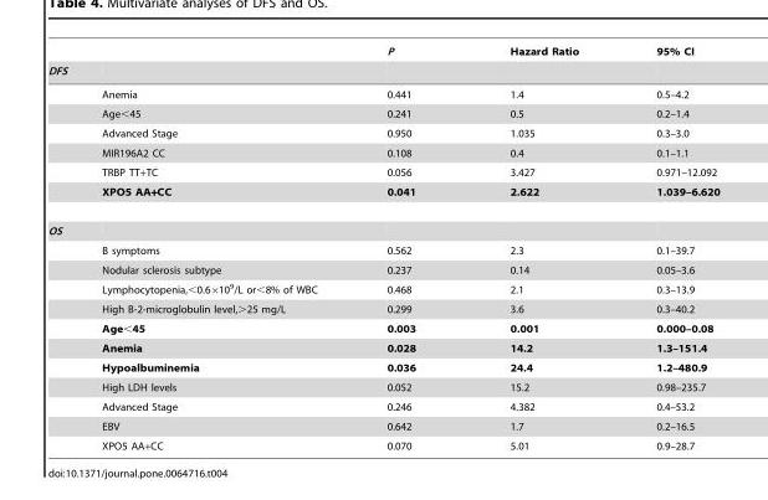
<table><thead><tr><td rowspan="2">DFS</td><td rowspan="2"></td><td rowspan="2">P</td><td rowspan="2">Hazard Ratio</td><td rowspan="2">95% CI</td></tr><tr></tr></thead><tbody><tr><td></td><td>Anemia</td><td>0.441</td><td>1.4</td><td>0.5–4.2</td></tr><tr><td></td><td>Age&lt;45</td><td>0.241</td><td>0.5</td><td>0.2–1.4</td></tr><tr><td></td><td>Advanced Stage</td><td>0.950</td><td>1.035</td><td>0.3–3.0</td></tr><tr><td></td><td>MIR196A2 CC</td><td>0.108</td><td>0.4</td><td>0.1–1.1</td></tr><tr><td></td><td>TRBP TT+TC</td><td>0.056</td><td>3.427</td><td>0.971–12.092</td></tr><tr><td></td><td>XPO5 AA+CC</td><td>0.041</td><td>2.622</td><td>1.039–6.620</td></tr><tr><td colspan="5">OS</td></tr><tr><td></td><td>B symptoms</td><td>0.562</td><td>2.3</td><td>0.1–39.7</td></tr><tr><td></td><td>Nodular sclerosis subtype</td><td>0.237</td><td>0.14</td><td>0.05–3.6</td></tr><tr><td></td><td>Lymphocytopenia,&lt;0.6×10<sup>9</sup>/L or&lt;8% of WBC</td><td>0.468</td><td>2.1</td><td>0.3–13.9</td></tr><tr><td></td><td>High B-2-microglobulin level,&gt;25 mg/L</td><td>0.299</td><td>3.6</td><td>0.3–40.2</td></tr><tr><td></td><td>Age&lt;45</td><td>0.003</td><td>0.001</td><td>0.000–0.08</td></tr><tr><td></td><td>Anemia</td><td>0.028</td><td>14.2</td><td>1.3–151.4</td></tr><tr><td></td><td>Hypoalbuminemia</td><td>0.036</td><td>24.4</td><td>1.2–480.9</td></tr><tr><td></td><td>High LDH levels</td><td>0.052</td><td>15.2</td><td>0.98–235.7</td></tr><tr><td></td><td>Advanced Stage</td><td>0.246</td><td>4.382</td><td>0.4–53.2</td></tr><tr><td></td><td>EBV</td><td>0.642</td><td>1.7</td><td>0.2–16.5</td></tr><tr><td></td><td>XPO5 AA+CC</td><td>0.070</td><td>5.01</td><td>0.9–28.7</td></tr></tbody></table>